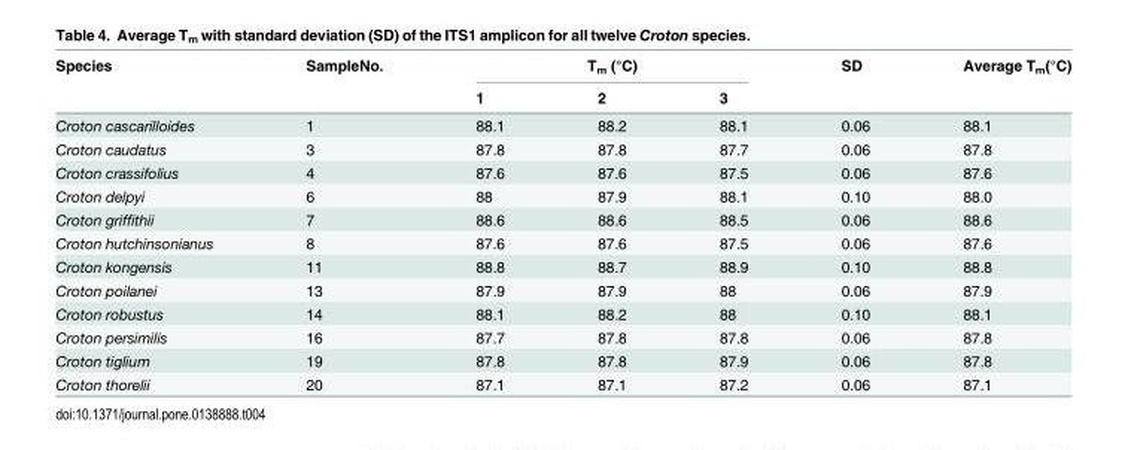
<table><thead><tr><td rowspan="2">Species</td><td rowspan="2">SampleNo.</td><td colspan="3">T<sub>m</sub> (°C)</td><td rowspan="2">SD</td><td rowspan="2">Average T<sub>m</sub>(°C)</td></tr><tr><td>1</td><td>2</td><td>3</td></tr></thead><tbody><tr><td>Croton cascarilloides</td><td>1</td><td>88.1</td><td>88.2</td><td>88.1</td><td>0.06</td><td>88.1</td></tr><tr><td>Croton caudatus</td><td>3</td><td>87.8</td><td>87.8</td><td>87.7</td><td>0.06</td><td>87.8</td></tr><tr><td>Croton crassifolius</td><td>4</td><td>87.6</td><td>87.6</td><td>87.5</td><td>0.06</td><td>87.6</td></tr><tr><td>Croton delpyi</td><td>6</td><td>88</td><td>87.9</td><td>88.1</td><td>0.10</td><td>88.0</td></tr><tr><td>Croton griffithii</td><td>7</td><td>88.6</td><td>88.6</td><td>88.5</td><td>0.06</td><td>88.6</td></tr><tr><td>Croton hutchinsonianus</td><td>8</td><td>87.6</td><td>87.6</td><td>87.5</td><td>0.06</td><td>87.6</td></tr><tr><td>Croton kongensis</td><td>11</td><td>88.8</td><td>88.7</td><td>88.9</td><td>0.10</td><td>88.8</td></tr><tr><td>Croton poilanei</td><td>13</td><td>87.9</td><td>87.9</td><td>88</td><td>0.06</td><td>87.9</td></tr><tr><td>Croton robustus</td><td>14</td><td>88.1</td><td>88.2</td><td>88</td><td>0.10</td><td>88.1</td></tr><tr><td>Croton persimilis</td><td>16</td><td>87.7</td><td>87.8</td><td>87.8</td><td>0.06</td><td>87.8</td></tr><tr><td>Croton tiglium</td><td>19</td><td>87.8</td><td>87.8</td><td>87.9</td><td>0.06</td><td>87.8</td></tr><tr><td>Croton thorelii</td><td>20</td><td>87.1</td><td>87.1</td><td>87.2</td><td>0.06</td><td>87.1</td></tr></tbody></table>